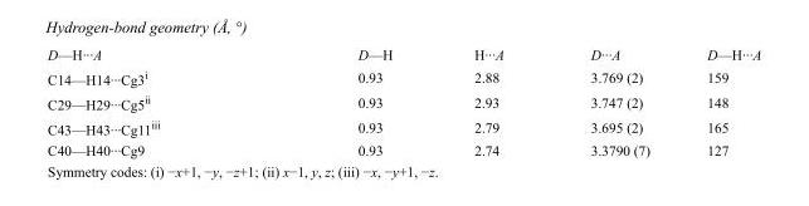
<table><tbody><tr><td>D—H···A</td><td>D—H</td><td>H···A</td><td>D···A</td><td>D—H···A</td></tr><tr><td>C14—H14···Cg3<sup>i</sup></td><td>0.93</td><td>2.88</td><td>3.769 (2)</td><td>159</td></tr><tr><td>C29—H29···Cg5<sup>ii</sup></td><td>0.93</td><td>2.93</td><td>3.747 (2)</td><td>148</td></tr><tr><td>C43—H43···Cg11<sup>iii</sup></td><td>0.93</td><td>2.79</td><td>3.695 (2)</td><td>165</td></tr><tr><td>C40—H40···Cg9</td><td>0.93</td><td>2.74</td><td>3.3790 (7)</td><td>127</td></tr></tbody></table>